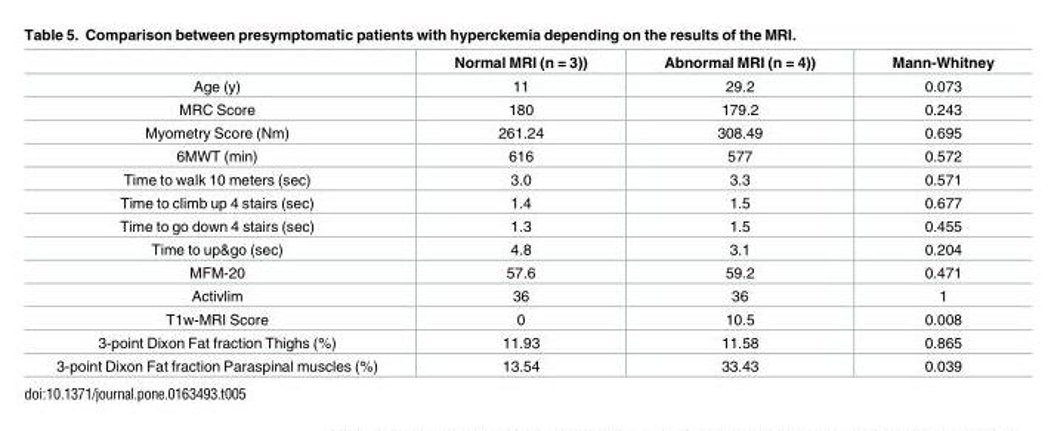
<table><thead><tr><td></td><td>Normal MRI (n = 3))</td><td>Abnormal MRI (n = 4))</td><td>Mann-Whitney</td></tr></thead><tbody><tr><td>Age (y)</td><td>11</td><td>29.2</td><td>0.073</td></tr><tr><td>MRC Score</td><td>180</td><td>179.2</td><td>0.243</td></tr><tr><td>Myometry Score (Nm)</td><td>261.24</td><td>308.49</td><td>0.695</td></tr><tr><td>6MWT (min)</td><td>616</td><td>577</td><td>0.572</td></tr><tr><td>Time to walk 10 meters (sec)</td><td>3.0</td><td>3.3</td><td>0.571</td></tr><tr><td>Time to climb up 4 stairs (sec)</td><td>1.4</td><td>1.5</td><td>0.677</td></tr><tr><td>Time to go down 4 stairs (sec)</td><td>1.3</td><td>1.5</td><td>0.455</td></tr><tr><td>Time to up&amp;go (sec)</td><td>4.8</td><td>3.1</td><td>0.204</td></tr><tr><td>MFM-20</td><td>57.6</td><td>59.2</td><td>0.471</td></tr><tr><td>Activlim</td><td>36</td><td>36</td><td>1</td></tr><tr><td>T1w-MRI Score</td><td>0</td><td>10.5</td><td>0.008</td></tr><tr><td>3-point Dixon Fat fraction Thighs (%)</td><td>11.93</td><td>11.58</td><td>0.865</td></tr><tr><td>3-point Dixon Fat fraction Paraspinal muscles (%)</td><td>13.54</td><td>33.43</td><td>0.039</td></tr></tbody></table>